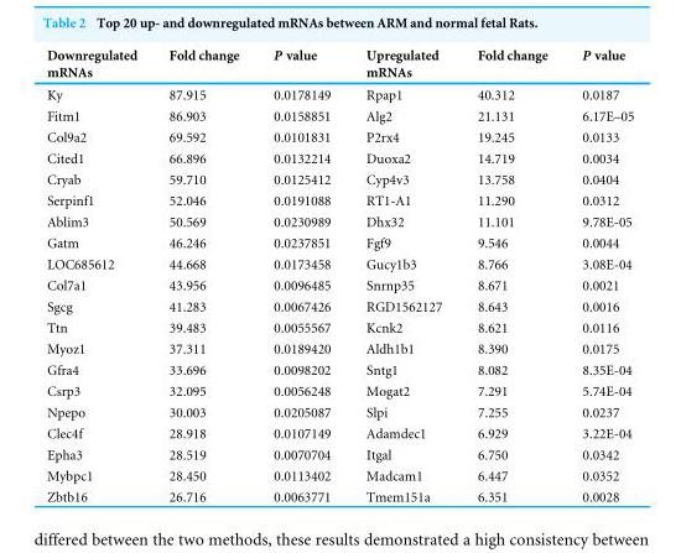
<table><thead><tr><td>Downregulated mRNAs</td><td>Fold change</td><td>P value</td><td>Upregulated mRNAs</td><td>Fold change</td><td>P value</td></tr></thead><tbody><tr><td>Ky</td><td>87.915</td><td>0.0178149</td><td>Rpap1</td><td>40.312</td><td>0.0187</td></tr><tr><td>Fitm1</td><td>86.903</td><td>0.0158851</td><td>Alg2</td><td>21.131</td><td>6.17E–05</td></tr><tr><td>Col9a2</td><td>69.592</td><td>0.0101831</td><td>P2rx4</td><td>19.245</td><td>0.0133</td></tr><tr><td>Cited1</td><td>66.896</td><td>0.0132214</td><td>Duoxa2</td><td>14.719</td><td>0.0034</td></tr><tr><td>Cryab</td><td>59.710</td><td>0.0125412</td><td>Cyp4v3</td><td>13.758</td><td>0.0404</td></tr><tr><td>Serpinf1</td><td>52.046</td><td>0.0191088</td><td>RT1-A1</td><td>11.290</td><td>0.0312</td></tr><tr><td>Ablim3</td><td>50.569</td><td>0.0230989</td><td>Dhx32</td><td>11.101</td><td>9.78E-05</td></tr><tr><td>Gatm</td><td>46.246</td><td>0.0237851</td><td>Fgf9</td><td>9.546</td><td>0.0044</td></tr><tr><td>LOC685612</td><td>44.668</td><td>0.0173458</td><td>Gucy1b3</td><td>8.766</td><td>3.08E-04</td></tr><tr><td>Col7a1</td><td>43.956</td><td>0.0096485</td><td>Snrnp35</td><td>8.671</td><td>0.0021</td></tr><tr><td>Sgcg</td><td>41.283</td><td>0.0067426</td><td>RGD1562127</td><td>8.643</td><td>0.0016</td></tr><tr><td>Ttn</td><td>39.483</td><td>0.0055567</td><td>Kcnk2</td><td>8.621</td><td>0.0116</td></tr><tr><td>Myoz1</td><td>37.311</td><td>0.0189420</td><td>Aldh1b1</td><td>8.390</td><td>0.0175</td></tr><tr><td>Gfra4</td><td>33.696</td><td>0.0098202</td><td>Sntg1</td><td>8.082</td><td>8.35E-04</td></tr><tr><td>Csrp3</td><td>32.095</td><td>0.0056248</td><td>Mogat2</td><td>7.291</td><td>5.74E-04</td></tr><tr><td>Npepo</td><td>30.003</td><td>0.0205087</td><td>Slpi</td><td>7.255</td><td>0.0237</td></tr><tr><td>Clec4f</td><td>28.918</td><td>0.0107149</td><td>Adamdec1</td><td>6.929</td><td>3.22E-04</td></tr><tr><td>Epha3</td><td>28.519</td><td>0.0070704</td><td>Itgal</td><td>6.750</td><td>0.0342</td></tr><tr><td>Mybpc1</td><td>28.450</td><td>0.0113402</td><td>Madcam1</td><td>6.447</td><td>0.0352</td></tr><tr><td>Zbtb16</td><td>26.716</td><td>0.0063771</td><td>Tmem151a</td><td>6.351</td><td>0.0028</td></tr></tbody></table>